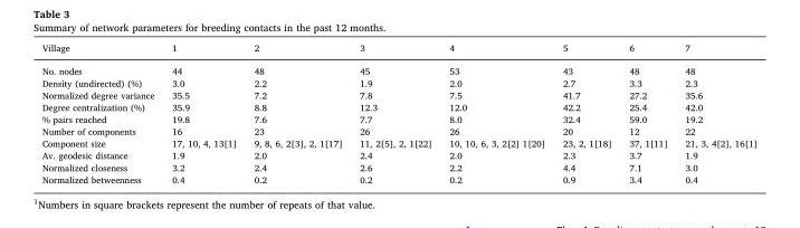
<table><thead><tr><td>Village</td><td>1</td><td>2</td><td>3</td><td>4</td><td>5</td><td>6</td><td>7</td></tr></thead><tbody><tr><td>No. nodes</td><td>44</td><td>48</td><td>45</td><td>53</td><td>43</td><td>48</td><td>48</td></tr><tr><td>Density (undirected) (%)</td><td>3.0</td><td>2.2</td><td>1.9</td><td>2.0</td><td>2.7</td><td>3.3</td><td>2.3</td></tr><tr><td>Normalized degree variance</td><td>35.5</td><td>7.2</td><td>7.8</td><td>7.5</td><td>41.7</td><td>27.2</td><td>35.6</td></tr><tr><td>Degree centralization (%)</td><td>35.9</td><td>8.8</td><td>12.3</td><td>12.0</td><td>42.2</td><td>25.4</td><td>42.0</td></tr><tr><td>% pairs reached</td><td>19.8</td><td>7.6</td><td>7.7</td><td>8.0</td><td>32.4</td><td>59.0</td><td>19.2</td></tr><tr><td>Number of components</td><td>16</td><td>23</td><td>26</td><td>26</td><td>20</td><td>12</td><td>22</td></tr><tr><td>Component size</td><td>17, 10, 4, 13[1]</td><td>9, 8, 6, 2[3], 2, 1[17]</td><td>11, 2[5], 2, 1[22]</td><td>10, 10, 6, 3, 2[2] 1[20]</td><td>23, 2, 1[18]</td><td>37, 1[11]</td><td>21, 3, 4[2], 16[1]</td></tr><tr><td>Av. geodesic distance</td><td>1.9</td><td>2.0</td><td>2.4</td><td>2.0</td><td>2.3</td><td>3.7</td><td>1.9</td></tr><tr><td>Normalized closeness</td><td>3.2</td><td>2.4</td><td>2.6</td><td>2.2</td><td>4.4</td><td>7.1</td><td>3.0</td></tr><tr><td>Normalized betweenness</td><td>0.4</td><td>0.2</td><td>0.2</td><td>0.2</td><td>0.9</td><td>3.4</td><td>0.4</td></tr></tbody></table>